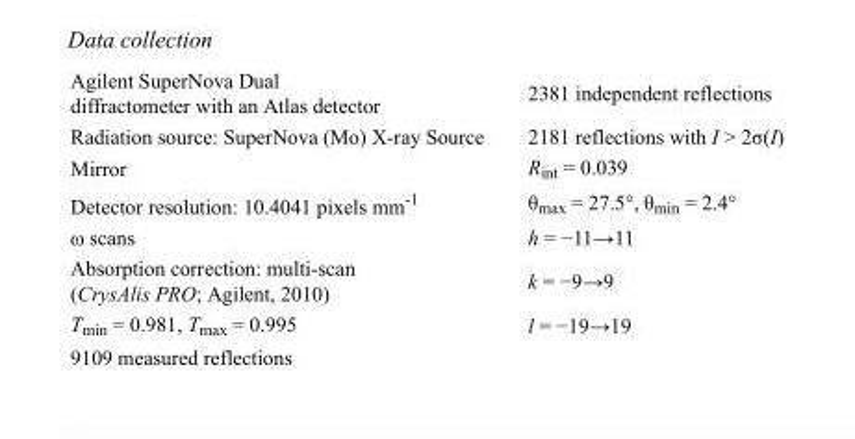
<table><tbody><tr><td>Agilent SuperNova Dual diffractometer with an Atlas detector</td><td>2381 independent reflections</td></tr><tr><td>Radiation source: SuperNova (Mo) X-ray Source</td><td>2181 reflections with I &gt; 2σ(I)</td></tr><tr><td>Mirror</td><td>R<sub>int</sub> = 0.039</td></tr><tr><td>Detector resolution: 10.4041 pixels mm<sup>-1</sup></td><td>θ<sub>max</sub> = 27.5°, θ<sub>min</sub> = 2.4°</td></tr><tr><td>ω scans</td><td>h = −11→11</td></tr><tr><td>Absorption correction: multi-scan (CrysAlis PRO; Agilent, 2010)</td><td>k = −9→9</td></tr><tr><td>T<sub>min</sub> = 0.981, T<sub>max</sub> = 0.995</td><td>l = −19→19</td></tr><tr><td>9109 measured reflections</td><td></td></tr></tbody></table>